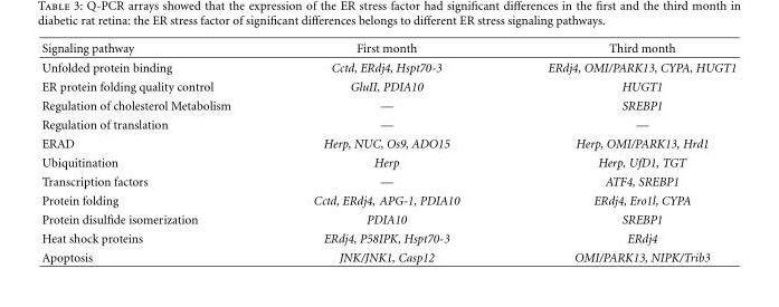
<table><thead><tr><td>Signaling pathway</td><td>First month</td><td>Third month</td></tr></thead><tbody><tr><td>Unfolded protein binding</td><td>Cctd, ERdj4, Hspt70-3</td><td>ERdj4, OMI/PARK13, CYPA, HUGT1</td></tr><tr><td>ER protein folding quality control</td><td>GluII, PDIA10</td><td>HUGT1</td></tr><tr><td>Regulation of cholesterol Metabolism</td><td>—</td><td>SREBP1</td></tr><tr><td>Regulation of translation</td><td>—</td><td>—</td></tr><tr><td>ERAD</td><td>Herp, NUC, Os9, ADO15</td><td>Herp, OMI/PARK13, Hrd1</td></tr><tr><td>Ubiquitination</td><td>Herp</td><td>Herp, UfD1, TGT</td></tr><tr><td>Transcription factors</td><td>—</td><td>ATF4, SREBP1</td></tr><tr><td>Protein folding</td><td>Cctd, ERdj4, APG-1, PDIA10</td><td>ERdj4, Ero1l, CYPA</td></tr><tr><td>Protein disulfide isomerization</td><td>PDIA10</td><td>SREBP1</td></tr><tr><td>Heat shock proteins</td><td>ERdj4, P58IPK, Hspt70-3</td><td>ERdj4</td></tr><tr><td>Apoptosis</td><td>JNK/JNK1, Casp12</td><td>OMI/PARK13, NIPK/Trib3</td></tr></tbody></table>